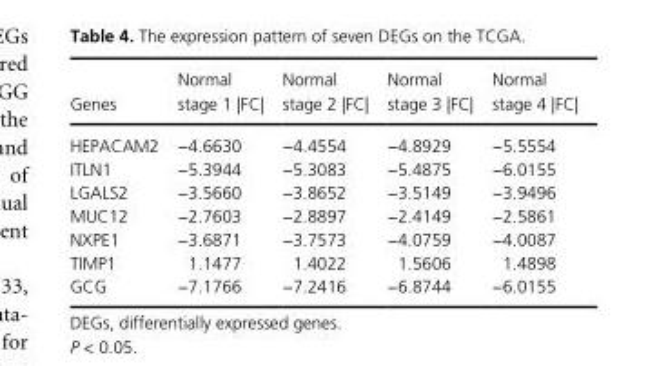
<table><thead><tr><td>Genes</td><td>Normal stage 1 |FC|</td><td>Normal stage 2 |FC|</td><td>Normal stage 3 |FC|</td><td>Normal stage 4 |FC|</td></tr></thead><tbody><tr><td>HEPACAM2</td><td>−4.6630</td><td>−4.4554</td><td>−4.8929</td><td>−5.5554</td></tr><tr><td>ITLN1</td><td>−5.3944</td><td>−5.3083</td><td>−5.4875</td><td>−6.0155</td></tr><tr><td>LGALS2</td><td>−3.5660</td><td>−3.8652</td><td>−3.5149</td><td>−3.9496</td></tr><tr><td>MUC12</td><td>−2.7603</td><td>−2.8897</td><td>−2.4149</td><td>−2.5861</td></tr><tr><td>NXPE1</td><td>−3.6871</td><td>−3.7573</td><td>−4.0759</td><td>−4.0087</td></tr><tr><td>TIMP1</td><td>1.1477</td><td>1.4022</td><td>1.5606</td><td>1.4898</td></tr><tr><td>GCG</td><td>−7.1766</td><td>−7.2416</td><td>−6.8744</td><td>−6.0155</td></tr></tbody></table>